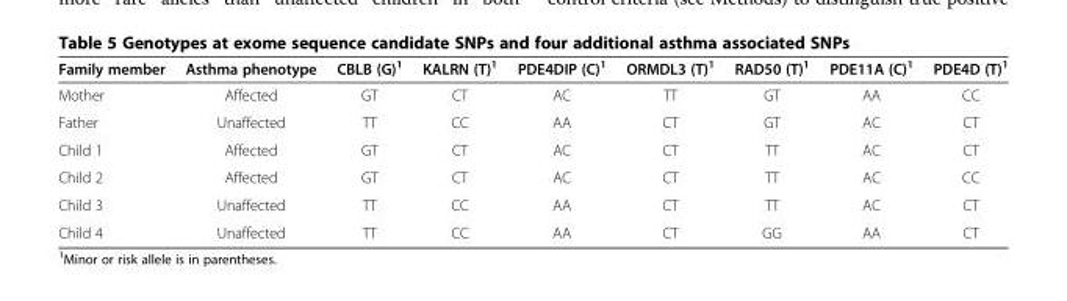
<table><thead><tr><td>Family member</td><td>Asthma phenotype</td><td>CBLB (G)<sup>1</sup></td><td>KALRN (T)<sup>1</sup></td><td>PDE4DIP (C)<sup>1</sup></td><td>ORMDL3 (T)<sup>1</sup></td><td>RAD50 (T)<sup>1</sup></td><td>PDE11A (C)<sup>1</sup></td><td>PDE4D (T)<sup>1</sup></td></tr></thead><tbody><tr><td>Mother</td><td>Affected</td><td>GT</td><td>CT</td><td>AC</td><td>TT</td><td>GT</td><td>AA</td><td>CC</td></tr><tr><td>Father</td><td>Unaffected</td><td>TT</td><td>CC</td><td>AA</td><td>CT</td><td>GT</td><td>AC</td><td>CT</td></tr><tr><td>Child 1</td><td>Affected</td><td>GT</td><td>CT</td><td>AC</td><td>CT</td><td>TT</td><td>AC</td><td>CT</td></tr><tr><td>Child 2</td><td>Affected</td><td>GT</td><td>CT</td><td>AC</td><td>CT</td><td>TT</td><td>AC</td><td>CC</td></tr><tr><td>Child 3</td><td>Unaffected</td><td>TT</td><td>CC</td><td>AA</td><td>CT</td><td>TT</td><td>AC</td><td>CT</td></tr><tr><td>Child 4</td><td>Unaffected</td><td>TT</td><td>CC</td><td>AA</td><td>CT</td><td>GG</td><td>AA</td><td>CT</td></tr></tbody></table>